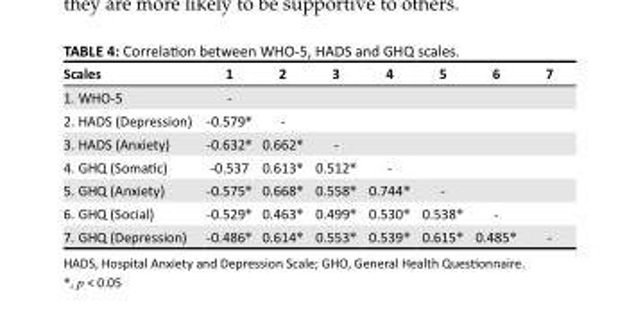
<table><thead><tr><td>Scales</td><td>1</td><td>2</td><td>3</td><td>4</td><td>5</td><td>6</td><td>7</td></tr></thead><tbody><tr><td>1. WHO-5</td><td>-</td><td></td><td></td><td></td><td></td><td></td><td></td></tr><tr><td>2. HADS (Depression)</td><td>-0.579*</td><td>-</td><td></td><td></td><td></td><td></td><td></td></tr><tr><td>3. HADS (Anxiety)</td><td>-0.632*</td><td>0.662*</td><td>-</td><td></td><td></td><td></td><td></td></tr><tr><td>4. GHQ (Somatic)</td><td>-0.537</td><td>0.613*</td><td>0.512*</td><td>-</td><td></td><td></td><td></td></tr><tr><td>5. GHQ (Anxiety)</td><td>-0.575*</td><td>0.668*</td><td>0.558*</td><td>0.744*</td><td>-</td><td></td><td></td></tr><tr><td>6. GHQ (Social)</td><td>-0.529*</td><td>0.463*</td><td>0.499*</td><td>0.530*</td><td>0.538*</td><td>-</td><td></td></tr><tr><td>7. GHQ (Depression)</td><td>-0.486*</td><td>0.614*</td><td>0.553*</td><td>0.539*</td><td>0.615*</td><td>0.485*</td><td>-</td></tr></tbody></table>